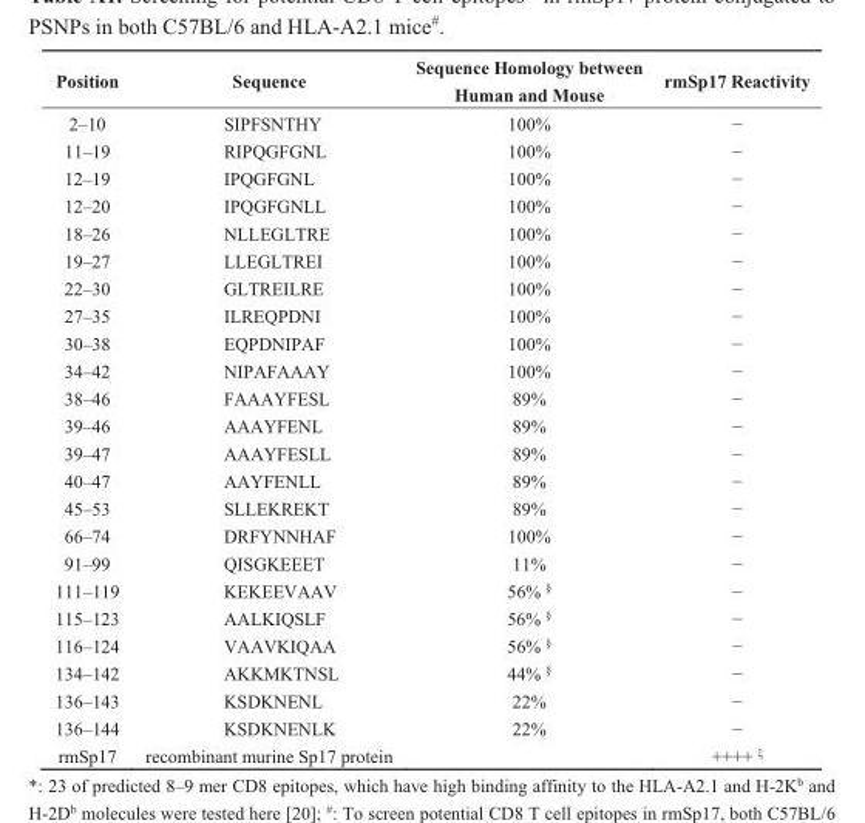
<table><thead><tr><td>Position</td><td>Sequence</td><td>Sequence Homology between Human and Mouse</td><td>rmSp17 Reactivity</td></tr></thead><tbody><tr><td>2–10</td><td>SIPFSNTHY</td><td>100%</td><td>−</td></tr><tr><td>11–19</td><td>RIPQGFGNL</td><td>100%</td><td>−</td></tr><tr><td>12–19</td><td>IPQGFGNL</td><td>100%</td><td>−</td></tr><tr><td>12–20</td><td>IPQGFGNLL</td><td>100%</td><td>−</td></tr><tr><td>18–26</td><td>NLLEGLTRE</td><td>100%</td><td>−</td></tr><tr><td>19–27</td><td>LLEGLTREI</td><td>100%</td><td>−</td></tr><tr><td>22–30</td><td>GLTREILRE</td><td>100%</td><td>−</td></tr><tr><td>27–35</td><td>ILREQPDNI</td><td>100%</td><td>−</td></tr><tr><td>30–38</td><td>EQPDNIPAF</td><td>100%</td><td>−</td></tr><tr><td>34–42</td><td>NIPAFAAAY</td><td>100%</td><td>−</td></tr><tr><td>38–46</td><td>FAAAYFESL</td><td>89%</td><td>−</td></tr><tr><td>39–46</td><td>AAAYFENL</td><td>89%</td><td>−</td></tr><tr><td>39–47</td><td>AAAYFESLL</td><td>89%</td><td>−</td></tr><tr><td>40–47</td><td>AAYFENLL</td><td>89%</td><td>−</td></tr><tr><td>45–53</td><td>SLLEKREKT</td><td>89%</td><td>−</td></tr><tr><td>66–74</td><td>DRFYNNHAF</td><td>100%</td><td>−</td></tr><tr><td>91–99</td><td>QISGKEEET</td><td>11%</td><td>−</td></tr><tr><td>111–119</td><td>KEKEEVAAV</td><td>56% <sup>§</sup></td><td>−</td></tr><tr><td>115–123</td><td>AALKIQSLF</td><td>56% <sup>§</sup></td><td>−</td></tr><tr><td>116–124</td><td>VAAVKIQAA</td><td>56% <sup>§</sup></td><td>−</td></tr><tr><td>134–142</td><td>AKKMKTNSL</td><td>44% <sup>§</sup></td><td>−</td></tr><tr><td>136–143</td><td>KSDKNENL</td><td>22%</td><td>−</td></tr><tr><td>136–144</td><td>KSDKNENLK</td><td>22%</td><td>−</td></tr><tr><td>rmSp17</td><td>recombinant murine Sp17 protein</td><td></td><td>++++ <sup>ξ</sup></td></tr></tbody></table>